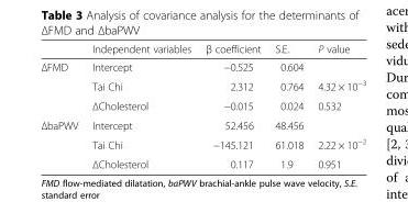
<table><thead><tr><td></td><td>Independent variables</td><td>β coefficient</td><td>S.E.</td><td>P value</td></tr></thead><tbody><tr><td rowspan="3">ΔFMD</td><td>Intercept</td><td>−0.525</td><td>0.604</td><td></td></tr><tr><td>Tai Chi</td><td>2.312</td><td>0.764</td><td>4.32 × 10<sup>−3</sup></td></tr><tr><td>ΔCholesterol</td><td>−0.015</td><td>0.024</td><td>0.532</td></tr><tr><td rowspan="3">ΔbaPWV</td><td>Intercept</td><td>52.456</td><td>48.456</td><td></td></tr><tr><td>Tai Chi</td><td>−145.121</td><td>61.018</td><td>2.22 × 10<sup>−2</sup></td></tr><tr><td>ΔCholesterol</td><td>0.117</td><td>1.9</td><td>0.951</td></tr></tbody></table>